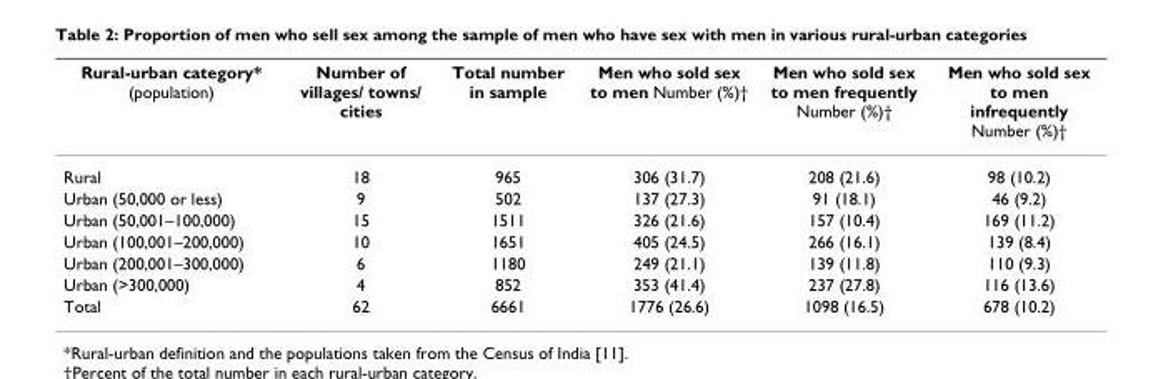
<table><thead><tr><td>Rural-urban category* (population)</td><td>Number of villages/ towns/ cities</td><td>Total number in sample</td><td>Men who sold sex to men Number (%)†</td><td>Men who sold sex to men frequently Number (%)†</td><td>Men who sold sex to men infrequently Number (%)†</td></tr></thead><tbody><tr><td>Rural</td><td>18</td><td>965</td><td>306 (31.7)</td><td>208 (21.6)</td><td>98 (10.2)</td></tr><tr><td>Urban (50,000 or less)</td><td>9</td><td>502</td><td>137 (27.3)</td><td>91 (18.1)</td><td>46 (9.2)</td></tr><tr><td>Urban (50,001–100,000)</td><td>15</td><td>1511</td><td>326 (21.6)</td><td>157 (10.4)</td><td>169 (11.2)</td></tr><tr><td>Urban (100,001–200,000)</td><td>10</td><td>1651</td><td>405 (24.5)</td><td>266 (16.1)</td><td>139 (8.4)</td></tr><tr><td>Urban (200,001–300,000)</td><td>6</td><td>1180</td><td>249 (21.1)</td><td>139 (11.8)</td><td>110 (9.3)</td></tr><tr><td>Urban (&gt;300,000)</td><td>4</td><td>852</td><td>353 (41.4)</td><td>237 (27.8)</td><td>116 (13.6)</td></tr><tr><td>Total</td><td>62</td><td>6661</td><td>1776 (26.6)</td><td>1098 (16.5)</td><td>678 (10.2)</td></tr></tbody></table>